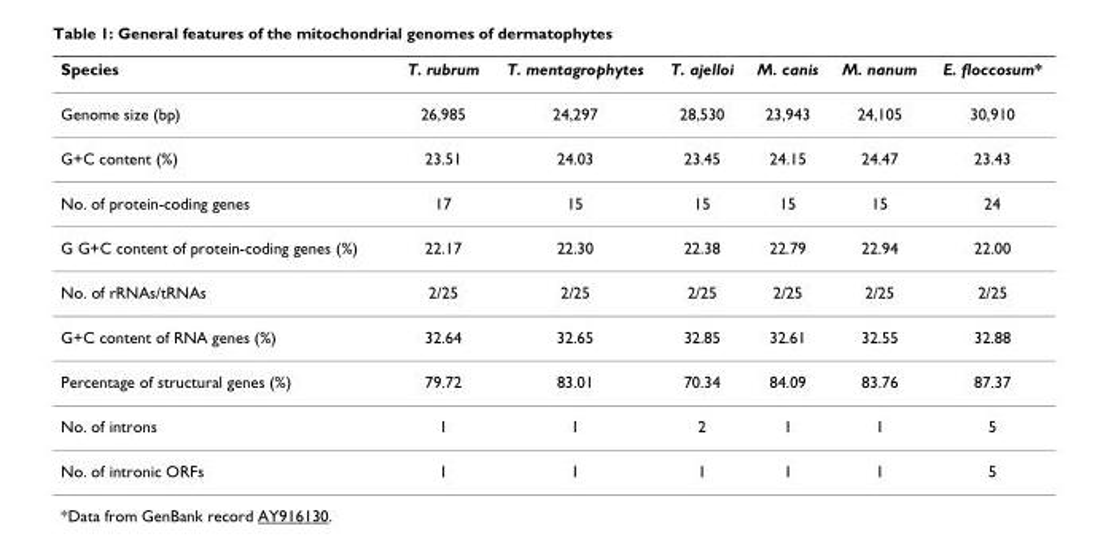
<table><thead><tr><td>Species</td><td>T. rubrum</td><td>T. mentagrophytes</td><td>T. ajelloi</td><td>M. canis</td><td>M. nanum</td><td>E. floccosum*</td></tr></thead><tbody><tr><td>Genome size (bp)</td><td>26,985</td><td>24,297</td><td>28,530</td><td>23,943</td><td>24,105</td><td>30,910</td></tr><tr><td>G+C content (%)</td><td>23.51</td><td>24.03</td><td>23.45</td><td>24.15</td><td>24.47</td><td>23.43</td></tr><tr><td>No. of protein-coding genes</td><td>17</td><td>15</td><td>15</td><td>15</td><td>15</td><td>24</td></tr><tr><td>G G+C content of protein-coding genes (%)</td><td>22.17</td><td>22.30</td><td>22.38</td><td>22.79</td><td>22.94</td><td>22.00</td></tr><tr><td>No. of rRNAs/tRNAs</td><td>2/25</td><td>2/25</td><td>2/25</td><td>2/25</td><td>2/25</td><td>2/25</td></tr><tr><td>G+C content of RNA genes (%)</td><td>32.64</td><td>32.65</td><td>32.85</td><td>32.61</td><td>32.55</td><td>32.88</td></tr><tr><td>Percentage of structural genes (%)</td><td>79.72</td><td>83.01</td><td>70.34</td><td>84.09</td><td>83.76</td><td>87.37</td></tr><tr><td>No. of introns</td><td>1</td><td>1</td><td>2</td><td>1</td><td>1</td><td>5</td></tr><tr><td>No. of intronic ORFs</td><td>1</td><td>1</td><td>1</td><td>1</td><td>1</td><td>5</td></tr></tbody></table>